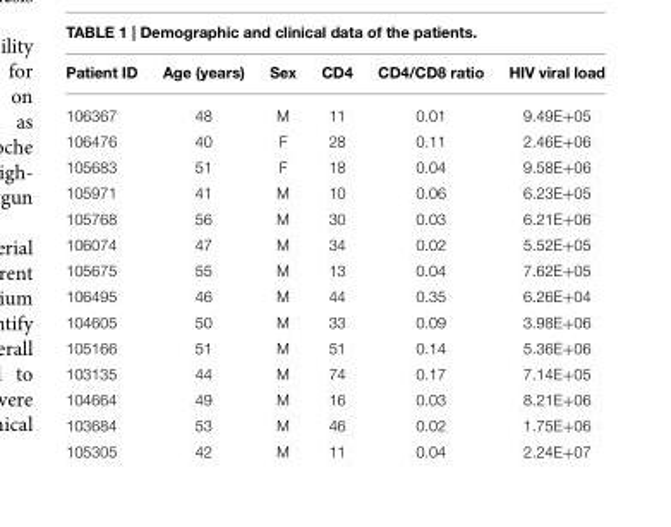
<table><thead><tr><td>Patient ID</td><td>Age (years)</td><td>Sex</td><td>CD4</td><td>CD4/CD8 ratio</td><td>HIV viral load</td></tr></thead><tbody><tr><td>106367</td><td>48</td><td>M</td><td>11</td><td>0.01</td><td>9.49E+05</td></tr><tr><td>106476</td><td>40</td><td>F</td><td>28</td><td>0.11</td><td>2.46E+06</td></tr><tr><td>105683</td><td>51</td><td>F</td><td>18</td><td>0.04</td><td>9.58E+06</td></tr><tr><td>105971</td><td>41</td><td>M</td><td>10</td><td>0.06</td><td>6.23E+05</td></tr><tr><td>105768</td><td>56</td><td>M</td><td>30</td><td>0.03</td><td>6.21E+06</td></tr><tr><td>106074</td><td>47</td><td>M</td><td>34</td><td>0.02</td><td>5.52E+05</td></tr><tr><td>105675</td><td>55</td><td>M</td><td>13</td><td>0.04</td><td>7.62E+05</td></tr><tr><td>106495</td><td>46</td><td>M</td><td>44</td><td>0.35</td><td>6.26E+04</td></tr><tr><td>104605</td><td>50</td><td>M</td><td>33</td><td>0.09</td><td>3.98E+06</td></tr><tr><td>105166</td><td>51</td><td>M</td><td>51</td><td>0.14</td><td>5.36E+06</td></tr><tr><td>103135</td><td>44</td><td>M</td><td>74</td><td>0.17</td><td>7.14E+05</td></tr><tr><td>104664</td><td>49</td><td>M</td><td>16</td><td>0.03</td><td>8.21E+06</td></tr><tr><td>103684</td><td>53</td><td>M</td><td>46</td><td>0.02</td><td>1.75E+06</td></tr><tr><td>105305</td><td>42</td><td>M</td><td>11</td><td>0.04</td><td>2.24E+07</td></tr></tbody></table>